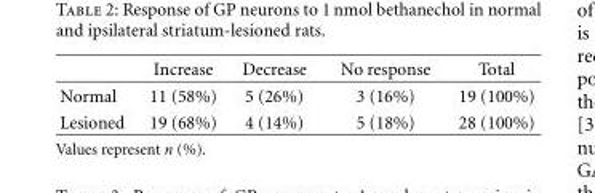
<table><thead><tr><td></td><td>Increase</td><td>Decrease</td><td>No response</td><td>Total</td></tr></thead><tbody><tr><td>Normal</td><td>11 (58%)</td><td>5 (26%)</td><td>3 (16%)</td><td>19 (100%)</td></tr><tr><td>Lesioned</td><td>19 (68%)</td><td>4 (14%)</td><td>5 (18%)</td><td>28 (100%)</td></tr></tbody></table>